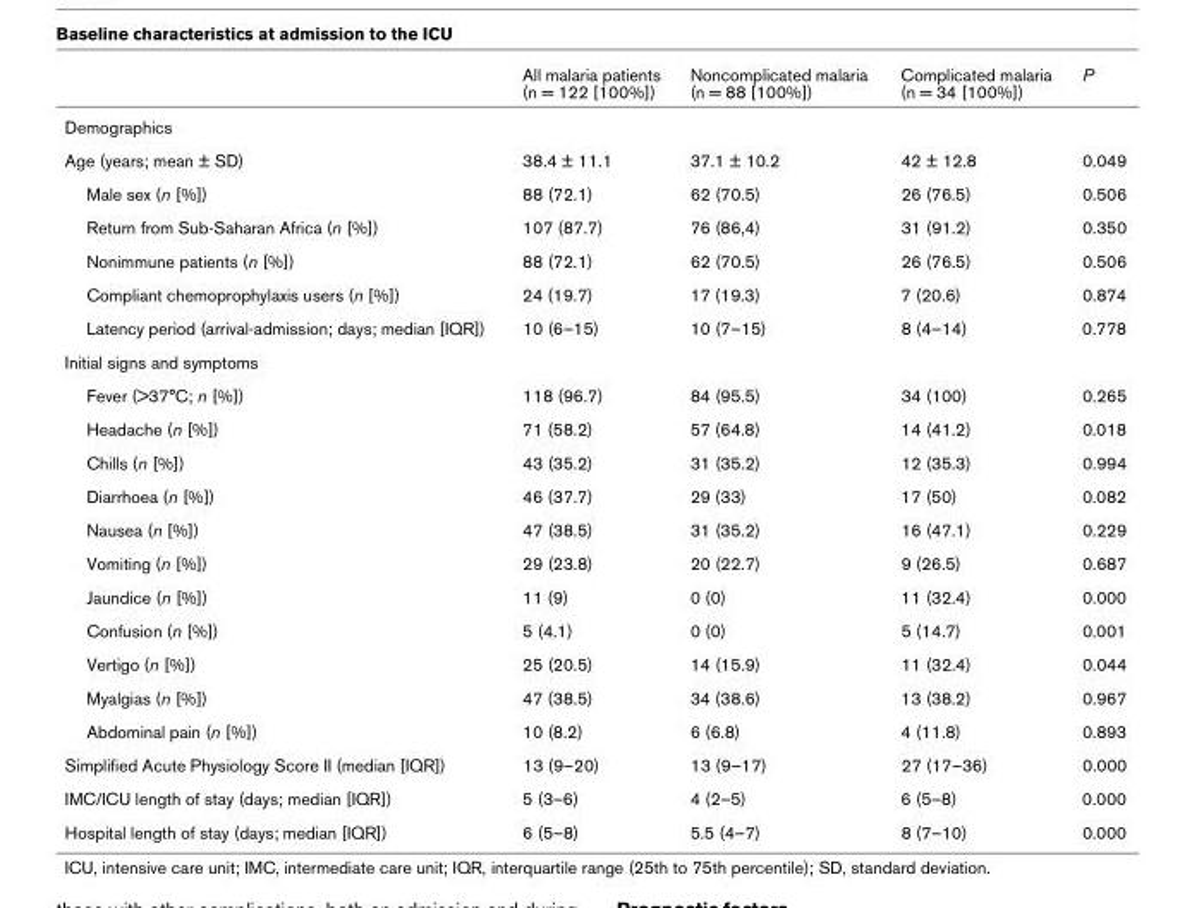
<table><thead><tr><td></td><td>All malaria patients (n = 122 [100%])</td><td>Noncomplicated malaria (n = 88 [100%])</td><td>Complicated malaria (n = 34 [100%])</td><td>P</td></tr></thead><tbody><tr><td colspan="5">Demographics</td></tr><tr><td>Age (years; mean ± SD)</td><td>38.4 ± 11.1</td><td>37.1 ± 10.2</td><td>42 ± 12.8</td><td>0.049</td></tr><tr><td>Male sex (n [%])</td><td>88 (72.1)</td><td>62 (70.5)</td><td>26 (76.5)</td><td>0.506</td></tr><tr><td>Return from Sub-Saharan Africa (n [%])</td><td>107 (87.7)</td><td>76 (86,4)</td><td>31 (91.2)</td><td>0.350</td></tr><tr><td>Nonimmune patients (n [%])</td><td>88 (72.1)</td><td>62 (70.5)</td><td>26 (76.5)</td><td>0.506</td></tr><tr><td>Compliant chemoprophylaxis users (n [%])</td><td>24 (19.7)</td><td>17 (19.3)</td><td>7 (20.6)</td><td>0.874</td></tr><tr><td>Latency period (arrival-admission; days; median [IQR])</td><td>10 (6–15)</td><td>10 (7–15)</td><td>8 (4–14)</td><td>0.778</td></tr><tr><td colspan="5">Initial signs and symptoms</td></tr><tr><td>Fever (&gt;37°C; n [%])</td><td>118 (96.7)</td><td>84 (95.5)</td><td>34 (100)</td><td>0.265</td></tr><tr><td>Headache (n [%])</td><td>71 (58.2)</td><td>57 (64.8)</td><td>14 (41.2)</td><td>0.018</td></tr><tr><td>Chills (n [%])</td><td>43 (35.2)</td><td>31 (35.2)</td><td>12 (35.3)</td><td>0.994</td></tr><tr><td>Diarrhoea (n [%])</td><td>46 (37.7)</td><td>29 (33)</td><td>17 (50)</td><td>0.082</td></tr><tr><td>Nausea (n [%])</td><td>47 (38.5)</td><td>31 (35.2)</td><td>16 (47.1)</td><td>0.229</td></tr><tr><td>Vomiting (n [%])</td><td>29 (23.8)</td><td>20 (22.7)</td><td>9 (26.5)</td><td>0.687</td></tr><tr><td>Jaundice (n [%])</td><td>11 (9)</td><td>0 (0)</td><td>11 (32.4)</td><td>0.000</td></tr><tr><td>Confusion (n [%])</td><td>5 (4.1)</td><td>0 (0)</td><td>5 (14.7)</td><td>0.001</td></tr><tr><td>Vertigo (n [%])</td><td>25 (20.5)</td><td>14 (15.9)</td><td>11 (32.4)</td><td>0.044</td></tr><tr><td>Myalgias (n [%])</td><td>47 (38.5)</td><td>34 (38.6)</td><td>13 (38.2)</td><td>0.967</td></tr><tr><td>Abdominal pain (n [%])</td><td>10 (8.2)</td><td>6 (6.8)</td><td>4 (11.8)</td><td>0.893</td></tr><tr><td>Simplified Acute Physiology Score II (median [IQR])</td><td>13 (9–20)</td><td>13 (9–17)</td><td>27 (17–36)</td><td>0.000</td></tr><tr><td>IMC/ICU length of stay (days; median [IQR])</td><td>5 (3–6)</td><td>4 (2–5)</td><td>6 (5–8)</td><td>0.000</td></tr><tr><td>Hospital length of stay (days; median [IQR])</td><td>6 (5–8)</td><td>5.5 (4–7)</td><td>8 (7–10)</td><td>0.000</td></tr></tbody></table>